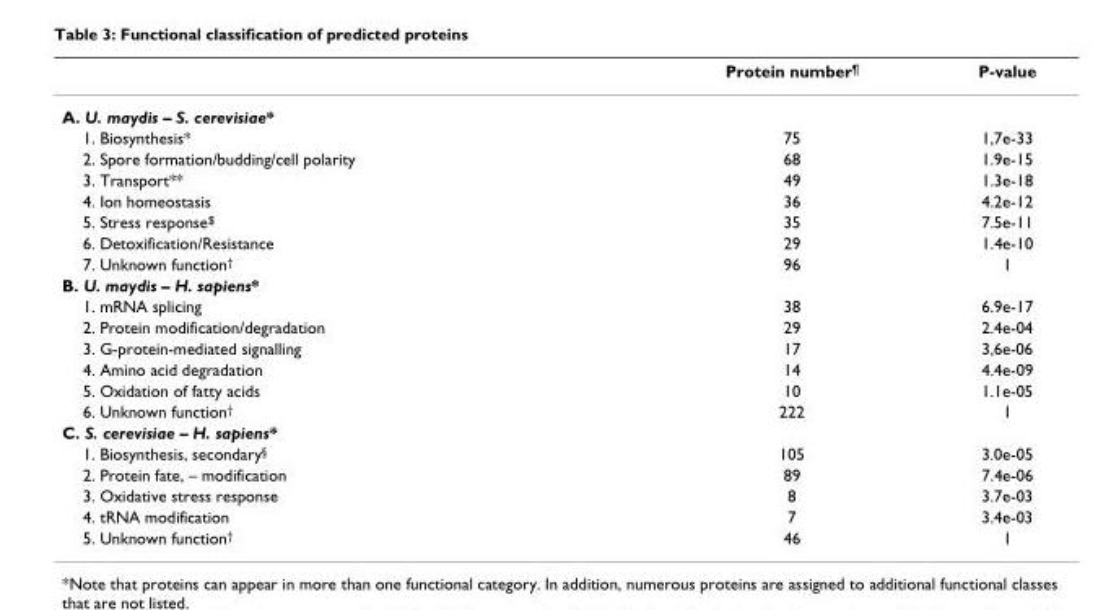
<table><thead><tr><td></td><td>Protein number<sup>¶</sup></td><td>P-value</td></tr></thead><tbody><tr><td colspan="3">A. U. maydis – S. cerevisiae*</td></tr><tr><td>1. Biosynthesis*</td><td>75</td><td>1,7e-33</td></tr><tr><td>2. Spore formation/budding/cell polarity</td><td>68</td><td>1.9e-15</td></tr><tr><td>3. Transport**</td><td>49</td><td>1.3e-18</td></tr><tr><td>4. Ion homeostasis</td><td>36</td><td>4.2e-12</td></tr><tr><td>5. Stress response<sup>$</sup></td><td>35</td><td>7.5e-11</td></tr><tr><td>6. Detoxification/Resistance</td><td>29</td><td>1.4e-10</td></tr><tr><td>7. Unknown function<sup>†</sup></td><td>96</td><td>1</td></tr><tr><td colspan="3">B. U. maydis – H. sapiens*</td></tr><tr><td>1. mRNA splicing</td><td>38</td><td>6.9e-17</td></tr><tr><td>2. Protein modification/degradation</td><td>29</td><td>2.4e-04</td></tr><tr><td>3. G-protein-mediated signalling</td><td>17</td><td>3,6e-06</td></tr><tr><td>4. Amino acid degradation</td><td>14</td><td>4.4e-09</td></tr><tr><td>5. Oxidation of fatty acids</td><td>10</td><td>1.1e-05</td></tr><tr><td>6. Unknown function<sup>†</sup></td><td>222</td><td>1</td></tr><tr><td colspan="3">C. S. cerevisiae – H. sapiens*</td></tr><tr><td>1. Biosynthesis, secondary<sup>§</sup></td><td>105</td><td>3.0e-05</td></tr><tr><td>2. Protein fate, – modification</td><td>89</td><td>7.4e-06</td></tr><tr><td>3. Oxidative stress response</td><td>8</td><td>3.7e-03</td></tr><tr><td>4. tRNA modification</td><td>7</td><td>3.4e-03</td></tr><tr><td>5. Unknown function<sup>†</sup></td><td>46</td><td>1</td></tr></tbody></table>